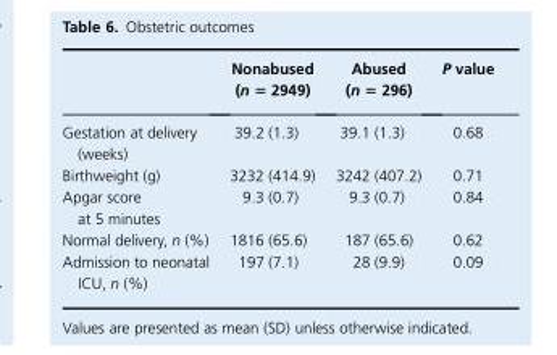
<table><thead><tr><td></td><td>Nonabused (n = 2949)</td><td>Abused (n = 296)</td><td>P value</td></tr></thead><tbody><tr><td>Gestation at delivery (weeks)</td><td>39.2 (1.3)</td><td>39.1 (1.3)</td><td>0.68</td></tr><tr><td>Birthweight (g)</td><td>3232 (414.9)</td><td>3242 (407.2)</td><td>0.71</td></tr><tr><td>Apgar score at 5 minutes</td><td>9.3 (0.7)</td><td>9.3 (0.7)</td><td>0.84</td></tr><tr><td>Normal delivery, n (%)</td><td>1816 (65.6)</td><td>187 (65.6)</td><td>0.62</td></tr><tr><td>Admission to neonatal ICU, n (%)</td><td>197 (7.1)</td><td>28 (9.9)</td><td>0.09</td></tr></tbody></table>